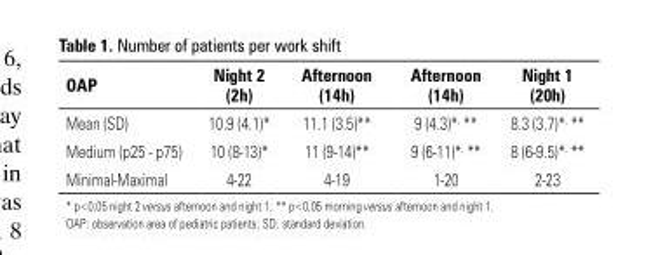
<table><thead><tr><td>OAP</td><td>Night 2 (2h)</td><td>Afternoon (14h)</td><td>Afternoon (14h)</td><td>Night 1 (20h)</td></tr></thead><tbody><tr><td>Mean (SD)</td><td>10.9 (4.1)*</td><td>11.1 (3.5)**</td><td>9 (4.3)*<sup>,</sup> **</td><td>8.3 (3.7)*<sup>,</sup> **</td></tr><tr><td>Medium (p25 - p75)</td><td>10 (8-13)*</td><td>11 (9-14)**</td><td>9 (6-11)*<sup>,</sup> **</td><td>8 (6-9.5)*<sup>,</sup> **</td></tr><tr><td>Minimal-Maximal</td><td>4-22</td><td>4-19</td><td>1-20</td><td>2-23</td></tr></tbody></table>